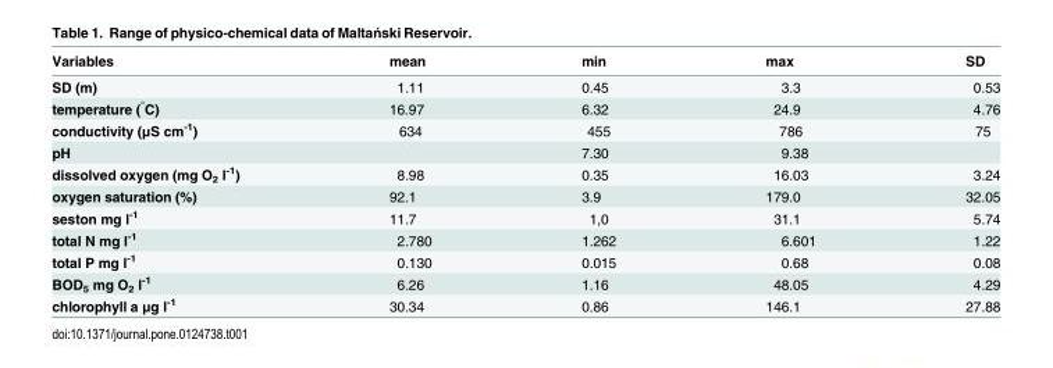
<table><thead><tr><td>Variables</td><td>mean</td><td>min</td><td>max</td><td>SD</td></tr></thead><tbody><tr><td>SD (m)</td><td>1.11</td><td>0.45</td><td>3.3</td><td>0.53</td></tr><tr><td>temperature (<sup>°</sup>C)</td><td>16.97</td><td>6.32</td><td>24.9</td><td>4.76</td></tr><tr><td>conductivity (μS cm<sup>-1</sup>)</td><td>634</td><td>455</td><td>786</td><td>75</td></tr><tr><td>pH</td><td></td><td>7.30</td><td>9.38</td><td></td></tr><tr><td>dissolved oxygen (mg O<sub>2</sub> l<sup>-1</sup>)</td><td>8.98</td><td>0.35</td><td>16.03</td><td>3.24</td></tr><tr><td>oxygen saturation (%)</td><td>92.1</td><td>3.9</td><td>179.0</td><td>32.05</td></tr><tr><td>seston mg l<sup>-1</sup></td><td>11.7</td><td>1,0</td><td>31.1</td><td>5.74</td></tr><tr><td>total N mg l<sup>-1</sup></td><td>2.780</td><td>1.262</td><td>6.601</td><td>1.22</td></tr><tr><td>total P mg l<sup>-1</sup></td><td>0.130</td><td>0.015</td><td>0.68</td><td>0.08</td></tr><tr><td>BOD<sub>5</sub> mg O<sub>2</sub> l<sup>-1</sup></td><td>6.26</td><td>1.16</td><td>48.05</td><td>4.29</td></tr><tr><td>chlorophyll a μg l<sup>-1</sup></td><td>30.34</td><td>0.86</td><td>146.1</td><td>27.88</td></tr></tbody></table>